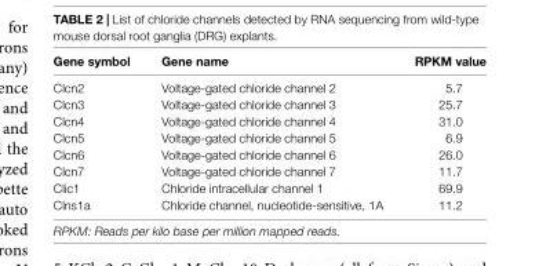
<table><thead><tr><td>Gene symbol</td><td>Gene name</td><td>RPKM value</td></tr></thead><tbody><tr><td>Clcn2</td><td>Voltage-gated chloride channel 2</td><td>5.7</td></tr><tr><td>Clcn3</td><td>Voltage-gated chloride channel 3</td><td>25.7</td></tr><tr><td>Clcn4</td><td>Voltage-gated chloride channel 4</td><td>31.0</td></tr><tr><td>Clcn5</td><td>Voltage-gated chloride channel 5</td><td>6.9</td></tr><tr><td>Clcn6</td><td>Voltage-gated chloride channel 6</td><td>26.0</td></tr><tr><td>Clcn7</td><td>Voltage-gated chloride channel 7</td><td>11.7</td></tr><tr><td>Clic1</td><td>Chloride intracellular channel 1</td><td>69.9</td></tr><tr><td>Clns1a</td><td>Chloride channel, nucleotide-sensitive, 1A</td><td>11.2</td></tr></tbody></table>